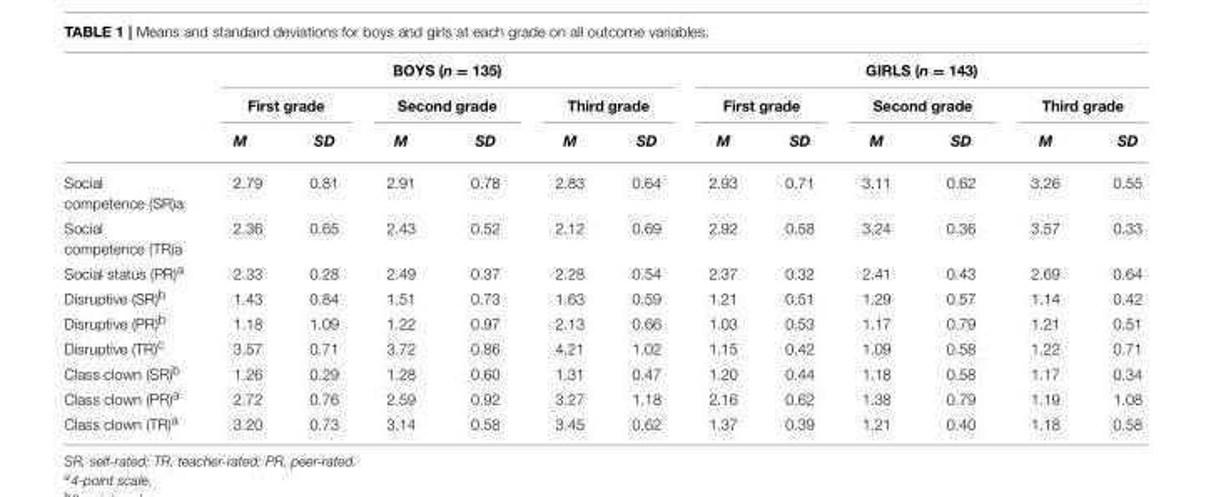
<table><thead><tr><td rowspan="3"></td><td colspan="6">BOYS (n = 135)</td><td colspan="6">GIRLS (n = 143)</td></tr><tr><td colspan="2">First grade</td><td colspan="2">Second grade</td><td colspan="2">Third grade</td><td colspan="2">First grade</td><td colspan="2">Second grade</td><td colspan="2">Third grade</td></tr><tr><td>M</td><td>SD</td><td>M</td><td>SD</td><td>M</td><td>SD</td><td>M</td><td>SD</td><td>M</td><td>SD</td><td>M</td><td>SD</td></tr></thead><tbody><tr><td>Social competence (SR)a</td><td>2.79</td><td>0.81</td><td>2.91</td><td>0.78</td><td>2.83</td><td>0.64</td><td>2.93</td><td>0.71</td><td>3.11</td><td>0.62</td><td>3.26</td><td>0.55</td></tr><tr><td>Social competence (TR)a</td><td>2.36</td><td>0.65</td><td>2.43</td><td>0.52</td><td>2.12</td><td>0.69</td><td>2.92</td><td>0.58</td><td>3.24</td><td>0.36</td><td>3.57</td><td>0.33</td></tr><tr><td>Social status (PR)<sup>a</sup></td><td>2.33</td><td>0.28</td><td>2.49</td><td>0.37</td><td>2.28</td><td>0.54</td><td>2.37</td><td>0.32</td><td>2.41</td><td>0.43</td><td>2.69</td><td>0.64</td></tr><tr><td>Disruptive (SR)<sup>b</sup></td><td>1.43</td><td>0.84</td><td>1.51</td><td>0.73</td><td>1.63</td><td>0.59</td><td>1.21</td><td>0.51</td><td>1.29</td><td>0.57</td><td>1.14</td><td>0.42</td></tr><tr><td>Disruptive (PR)<sup>b</sup></td><td>1.18</td><td>1.09</td><td>1.22</td><td>0.97</td><td>2.13</td><td>0.66</td><td>1.03</td><td>0.53</td><td>1.17</td><td>0.79</td><td>1.21</td><td>0.51</td></tr><tr><td>Disruptive (TR)<sup>c</sup></td><td>3.57</td><td>0.71</td><td>3.72</td><td>0.86</td><td>4.21</td><td>1.02</td><td>1.15</td><td>0.42</td><td>1.09</td><td>0.58</td><td>1.22</td><td>0.71</td></tr><tr><td>Class clown (SR)<sup>b</sup></td><td>1.26</td><td>0.29</td><td>1.28</td><td>0.60</td><td>1.31</td><td>0.47</td><td>1.20</td><td>0.44</td><td>1.18</td><td>0.58</td><td>1.17</td><td>0.34</td></tr><tr><td>Class clown (PR)<sup>a</sup></td><td>2.72</td><td>0.76</td><td>2.59</td><td>0.92</td><td>3.27</td><td>1.18</td><td>2.16</td><td>0.62</td><td>1.38</td><td>0.79</td><td>1.19</td><td>1.08</td></tr><tr><td>Class clown (TR)<sup>a</sup></td><td>3.20</td><td>0.73</td><td>3.14</td><td>0.58</td><td>3.45</td><td>0.62</td><td>1.37</td><td>0.39</td><td>1.21</td><td>0.40</td><td>1.18</td><td>0.58</td></tr></tbody></table>